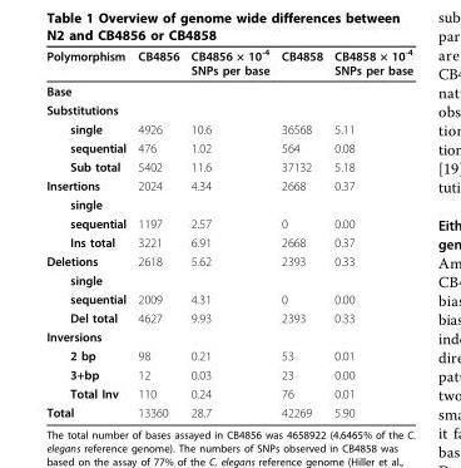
<table><thead><tr><td>Polymorphism</td><td>CB4856</td><td>CB4856 × 10<sup>-4</sup> SNPs per base</td><td>CB4858</td><td>CB4858 × 10<sup>-4</sup> SNPs per base</td></tr></thead><tbody><tr><td colspan="5">Base</td></tr><tr><td colspan="5">Substitutions</td></tr><tr><td>single</td><td>4926</td><td>10.6</td><td>36568</td><td>5.11</td></tr><tr><td>sequential</td><td>476</td><td>1.02</td><td>564</td><td>0.08</td></tr><tr><td>Sub total</td><td>5402</td><td>11.6</td><td>37132</td><td>5.18</td></tr><tr><td>Insertions</td><td>2024</td><td>4.34</td><td>2668</td><td>0.37</td></tr><tr><td colspan="5">single</td></tr><tr><td>sequential</td><td>1197</td><td>2.57</td><td>0</td><td>0.00</td></tr><tr><td>Ins total</td><td>3221</td><td>6.91</td><td>2668</td><td>0.37</td></tr><tr><td>Deletions</td><td>2618</td><td>5.62</td><td>2393</td><td>0.33</td></tr><tr><td colspan="5">single</td></tr><tr><td>sequential</td><td>2009</td><td>4.31</td><td>0</td><td>0.00</td></tr><tr><td>Del total</td><td>4627</td><td>9.93</td><td>2393</td><td>0.33</td></tr><tr><td colspan="5">Inversions</td></tr><tr><td>2 bp</td><td>98</td><td>0.21</td><td>53</td><td>0.01</td></tr><tr><td>3+bp</td><td>12</td><td>0.03</td><td>23</td><td>0.00</td></tr><tr><td>Total Inv</td><td>110</td><td>0.24</td><td>76</td><td>0.01</td></tr><tr><td>Total</td><td>13360</td><td>28.7</td><td>42269</td><td>5.90</td></tr></tbody></table>